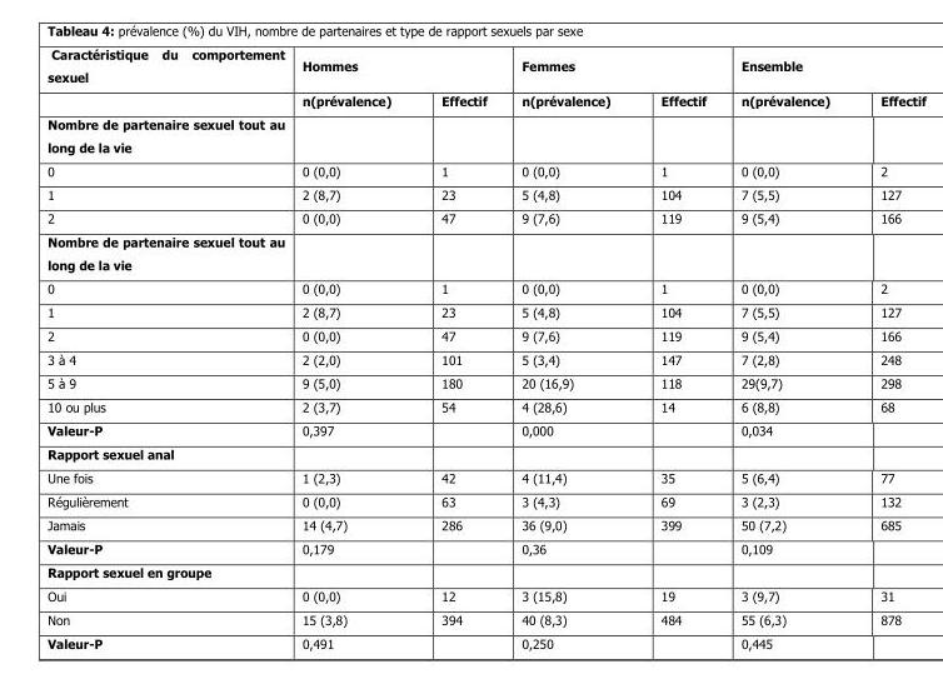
<table><thead><tr><td rowspan="2">Caractéristique du comportement sexuel</td><td colspan="2">Hommes</td><td colspan="2">Femmes</td><td colspan="2">Ensemble</td></tr><tr><td>n(prévalence)</td><td>Effectif</td><td>n(prévalence)</td><td>Effectif</td><td>n(prévalence)</td><td>Effectif</td></tr></thead><tbody><tr><td colspan="7">Nombre de partenaire sexuel tout au long de la vie</td></tr><tr><td>0</td><td>0 (0,0)</td><td>1</td><td>0 (0,0)</td><td>1</td><td>0 (0,0)</td><td>2</td></tr><tr><td>1</td><td>2 (8,7)</td><td>23</td><td>5 (4,8)</td><td>104</td><td>7 (5,5)</td><td>127</td></tr><tr><td>2</td><td>0 (0,0)</td><td>47</td><td>9 (7,6)</td><td>119</td><td>9 (5,4)</td><td>166</td></tr><tr><td colspan="7">Nombre de partenaire sexuel tout au long de la vie</td></tr><tr><td>0</td><td>0 (0,0)</td><td>1</td><td>0 (0,0)</td><td>1</td><td>0 (0,0)</td><td>2</td></tr><tr><td>1</td><td>2 (8,7)</td><td>23</td><td>5 (4,8)</td><td>104</td><td>7 (5,5)</td><td>127</td></tr><tr><td>2</td><td>0 (0,0)</td><td>47</td><td>9 (7,6)</td><td>119</td><td>9 (5,4)</td><td>166</td></tr><tr><td>3 à 4</td><td>2 (2,0)</td><td>101</td><td>5 (3,4)</td><td>147</td><td>7 (2,8)</td><td>248</td></tr><tr><td>5 à 9</td><td>9 (5,0)</td><td>180</td><td>20 (16,9)</td><td>118</td><td>29(9,7)</td><td>298</td></tr><tr><td>10 ou plus</td><td>2 (3,7)</td><td>54</td><td>4 (28,6)</td><td>14</td><td>6 (8,8)</td><td>68</td></tr><tr><td>Valeur-P</td><td>0,397</td><td></td><td>0,000</td><td></td><td>0,034</td><td></td></tr><tr><td colspan="7">Rapport sexuel anal</td></tr><tr><td>Une fois</td><td>1 (2,3)</td><td>42</td><td>4 (11,4)</td><td>35</td><td>5 (6,4)</td><td>77</td></tr><tr><td>Régulièrement</td><td>0 (0,0)</td><td>63</td><td>3 (4,3)</td><td>69</td><td>3 (2,3)</td><td>132</td></tr><tr><td>Jamais</td><td>14 (4,7)</td><td>286</td><td>36 (9,0)</td><td>399</td><td>50 (7,2)</td><td>685</td></tr><tr><td>Valeur-P</td><td>0,179</td><td></td><td>0,36</td><td></td><td>0,109</td><td></td></tr><tr><td colspan="7">Rapport sexuel en groupe</td></tr><tr><td>Oui</td><td>0 (0,0)</td><td>12</td><td>3 (15,8)</td><td>19</td><td>3 (9,7)</td><td>31</td></tr><tr><td>Non</td><td>15 (3,8)</td><td>394</td><td>40 (8,3)</td><td>484</td><td>55 (6,3)</td><td>878</td></tr><tr><td>Valeur-P</td><td>0,491</td><td></td><td>0,250</td><td></td><td>0,445</td><td></td></tr></tbody></table>